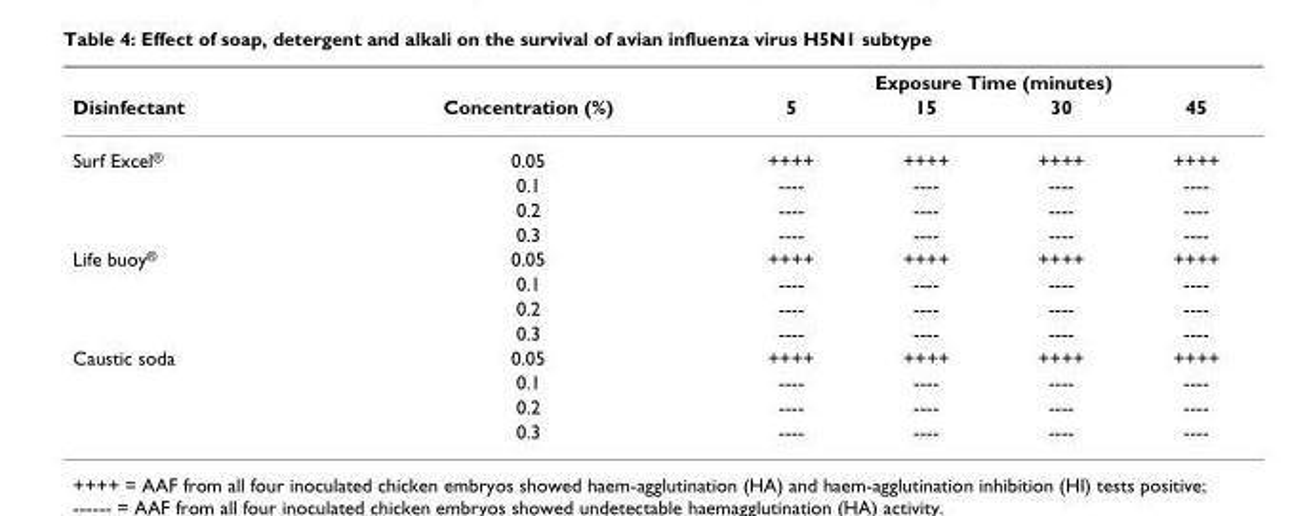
<table><thead><tr><td rowspan="2">Disinfectant</td><td rowspan="2">Concentration (%)</td><td colspan="4">Exposure Time (minutes)</td></tr><tr><td>5</td><td>15</td><td>30</td><td>45</td></tr></thead><tbody><tr><td rowspan="4">Surf Excel<sup>®</sup></td><td>0.05</td><td>++++</td><td>++++</td><td>++++</td><td>++++</td></tr><tr><td>0.1</td><td>----</td><td>----</td><td>----</td><td>----</td></tr><tr><td>0.2</td><td>----</td><td>----</td><td>----</td><td>----</td></tr><tr><td>0.3</td><td>----</td><td>----</td><td>----</td><td>----</td></tr><tr><td rowspan="4">Life buoy<sup>®</sup></td><td>0.05</td><td>++++</td><td>++++</td><td>++++</td><td>++++</td></tr><tr><td>0.1</td><td>----</td><td>----</td><td>----</td><td>----</td></tr><tr><td>0.2</td><td>----</td><td>----</td><td>----</td><td>----</td></tr><tr><td>0.3</td><td>----</td><td>----</td><td>----</td><td>----</td></tr><tr><td rowspan="4">Caustic soda</td><td>0.05</td><td>++++</td><td>++++</td><td>++++</td><td>++++</td></tr><tr><td>0.1</td><td>----</td><td>----</td><td>----</td><td>----</td></tr><tr><td>0.2</td><td>----</td><td>----</td><td>----</td><td>----</td></tr><tr><td>0.3</td><td>----</td><td>----</td><td>----</td><td>----</td></tr></tbody></table>